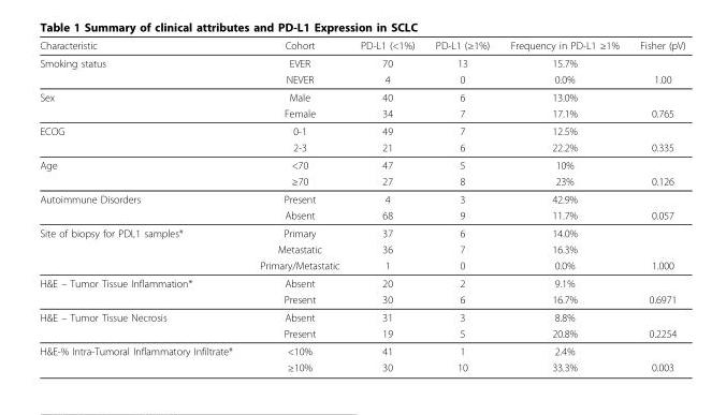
<table><thead><tr><td>Characteristic</td><td>Cohort</td><td>PD-L1 (&lt;1%)</td><td>PD-L1 (≥1%)</td><td>Frequency in PD-L1 ≥1%</td><td>Fisher (pV)</td></tr></thead><tbody><tr><td rowspan="2">Smoking status</td><td>EVER</td><td>70</td><td>13</td><td>15.7%</td><td></td></tr><tr><td>NEVER</td><td>4</td><td>0</td><td>0.0%</td><td>1.00</td></tr><tr><td rowspan="2">Sex</td><td>Male</td><td>40</td><td>6</td><td>13.0%</td><td></td></tr><tr><td>Female</td><td>34</td><td>7</td><td>17.1%</td><td>0.765</td></tr><tr><td rowspan="2">ECOG</td><td>0-1</td><td>49</td><td>7</td><td>12.5%</td><td></td></tr><tr><td>2-3</td><td>21</td><td>6</td><td>22.2%</td><td>0.335</td></tr><tr><td rowspan="2">Age</td><td>&lt;70</td><td>47</td><td>5</td><td>10%</td><td></td></tr><tr><td>≥70</td><td>27</td><td>8</td><td>23%</td><td>0.126</td></tr><tr><td rowspan="2">Autoimmune Disorders</td><td>Present</td><td>4</td><td>3</td><td>42.9%</td><td></td></tr><tr><td>Absent</td><td>68</td><td>9</td><td>11.7%</td><td>0.057</td></tr><tr><td rowspan="3">Site of biopsy for PDL1 samples*</td><td>Primary</td><td>37</td><td>6</td><td>14.0%</td><td></td></tr><tr><td>Metastatic</td><td>36</td><td>7</td><td>16.3%</td><td></td></tr><tr><td>Primary/Metastatic</td><td>1</td><td>0</td><td>0.0%</td><td>1.000</td></tr><tr><td rowspan="2">H&amp;E – Tumor Tissue Inflammation*</td><td>Absent</td><td>20</td><td>2</td><td>9.1%</td><td></td></tr><tr><td>Present</td><td>30</td><td>6</td><td>16.7%</td><td>0.6971</td></tr><tr><td rowspan="2">H&amp;E – Tumor Tissue Necrosis</td><td>Absent</td><td>31</td><td>3</td><td>8.8%</td><td></td></tr><tr><td>Present</td><td>19</td><td>5</td><td>20.8%</td><td>0.2254</td></tr><tr><td rowspan="2">H&amp;E-% Intra-Tumoral Inflammatory Infiltrate*</td><td>&lt;10%</td><td>41</td><td>1</td><td>2.4%</td><td></td></tr><tr><td>≥10%</td><td>30</td><td>10</td><td>33.3%</td><td>0.003</td></tr></tbody></table>